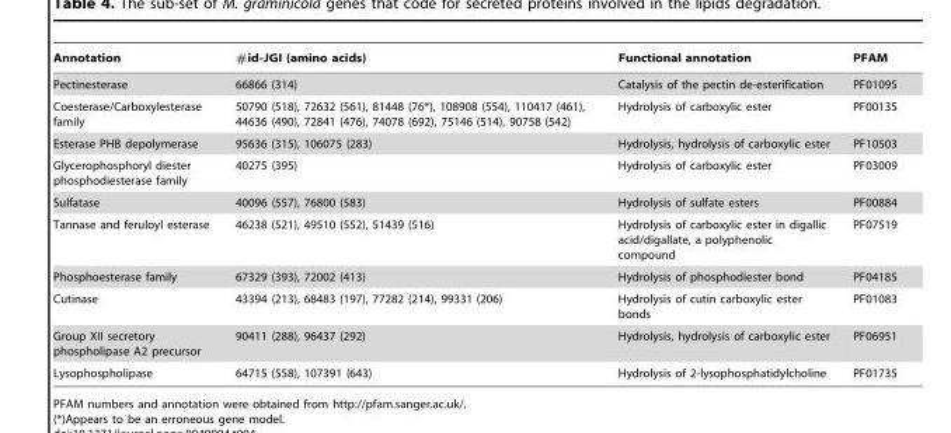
<table><thead><tr><td>Annotation</td><td>#id-JGI (amino acids)</td><td>Functional annotation</td><td>PFAM</td></tr></thead><tbody><tr><td>Pectinesterase</td><td>66866 (314)</td><td>Catalysis of the pectin de-esterification</td><td>PF01095</td></tr><tr><td>Coesterase/Carboxylesterase family</td><td>50790 (518), 72632 (561), 81448 (76*), 108908 (554), 110417 (461), 44636 (490), 72841 (476), 74078 (692), 75146 (514), 90758 (542)</td><td>Hydrolysis of carboxylic ester</td><td>PF00135</td></tr><tr><td>Esterase PHB depolymerase</td><td>95636 (315), 106075 (283)</td><td>Hydrolysis, hydrolysis of carboxylic ester</td><td>PF10503</td></tr><tr><td>Glycerophosphoryl diester phosphodiesterase family</td><td>40275 (395)</td><td>Hydrolysis of carboxylic ester</td><td>PF03009</td></tr><tr><td>Sulfatase</td><td>40096 (557), 76800 (583)</td><td>Hydrolysis of sulfate esters</td><td>PF00884</td></tr><tr><td>Tannase and feruloyl esterase</td><td>46238 (521), 49510 (552), 51439 (516)</td><td>Hydrolysis of carboxylic ester in digallic acid/digallate, a polyphenolic compound</td><td>PF07519</td></tr><tr><td>Phosphoesterase family</td><td>67329 (393), 72002 (413)</td><td>Hydrolysis of phosphodiester bond</td><td>PF04185</td></tr><tr><td>Cutinase</td><td>43394 (213), 68483 (197), 77282 (214), 99331 (206)</td><td>Hydrolysis of cutin carboxylic ester bonds</td><td>PF01083</td></tr><tr><td>Group XII secretory phospholipase A2 precursor</td><td>90411 (288), 96437 (292)</td><td>Hydrolysis, hydrolysis of carboxylic ester</td><td>PF06951</td></tr><tr><td>Lysophospholipase</td><td>64715 (558), 107391 (643)</td><td>Hydrolysis of 2-lysophosphatidylcholine</td><td>PF01735</td></tr></tbody></table>